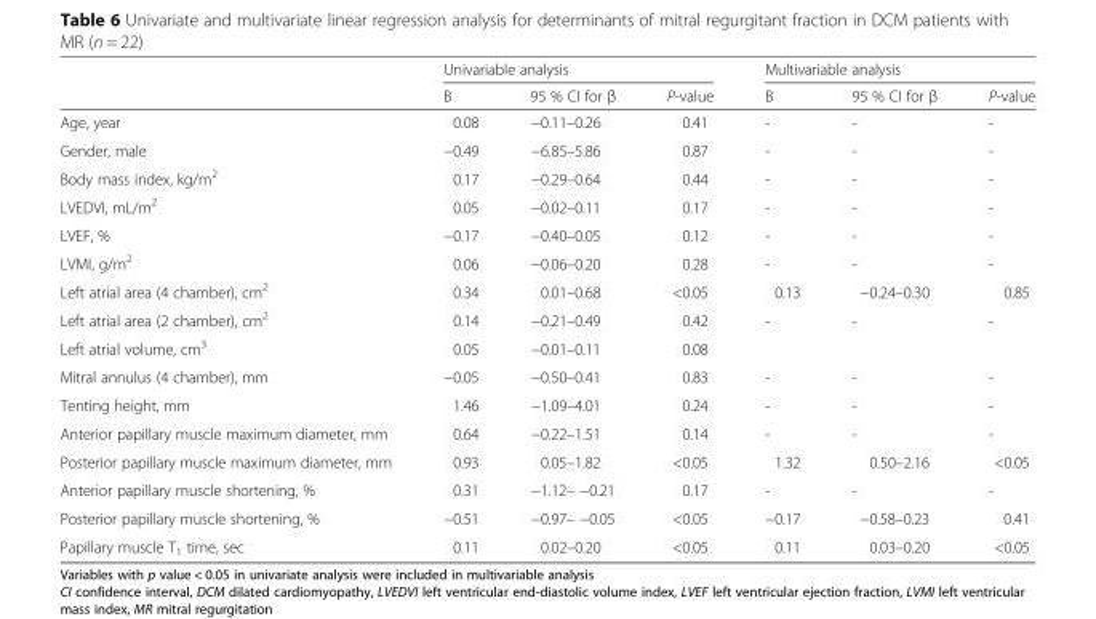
<table><thead><tr><td rowspan="2"></td><td colspan="3">Univariable analysis</td><td colspan="3">Multivariable analysis</td></tr><tr><td>B</td><td>95 % CI for β</td><td>P-value</td><td>B</td><td>95 % CI for β</td><td>P-value</td></tr></thead><tbody><tr><td>Age, year</td><td>0.08</td><td>−0.11–0.26</td><td>0.41</td><td>-</td><td>-</td><td>-</td></tr><tr><td>Gender, male</td><td>−0.49</td><td>−6.85–5.86</td><td>0.87</td><td>-</td><td>-</td><td>-</td></tr><tr><td>Body mass index, kg/m<sup>2</sup></td><td>0.17</td><td>−0.29–0.64</td><td>0.44</td><td>-</td><td>-</td><td>-</td></tr><tr><td>LVEDVI, mL/m<sup>2</sup></td><td>0.05</td><td>−0.02–0.11</td><td>0.17</td><td>-</td><td>-</td><td>-</td></tr><tr><td>LVEF, %</td><td>−0.17</td><td>−0.40–0.05</td><td>0.12</td><td>-</td><td>-</td><td>-</td></tr><tr><td>LVMI, g/m<sup>2</sup></td><td>0.06</td><td>−0.06–0.20</td><td>0.28</td><td>-</td><td>-</td><td>-</td></tr><tr><td>Left atrial area (4 chamber), cm<sup>2</sup></td><td>0.34</td><td>0.01–0.68</td><td>&lt;0.05</td><td>0.13</td><td>−0.24–0.30</td><td>0.85</td></tr><tr><td>Left atrial area (2 chamber), cm<sup>2</sup></td><td>0.14</td><td>−0.21–0.49</td><td>0.42</td><td>-</td><td>-</td><td>-</td></tr><tr><td>Left atrial volume, cm<sup>3</sup></td><td>0.05</td><td>−0.01–0.11</td><td>0.08</td><td></td><td></td><td></td></tr><tr><td>Mitral annulus (4 chamber), mm</td><td>−0.05</td><td>−0.50–0.41</td><td>0.83</td><td>-</td><td>-</td><td>-</td></tr><tr><td>Tenting height, mm</td><td>1.46</td><td>−1.09–4.01</td><td>0.24</td><td>-</td><td>-</td><td>-</td></tr><tr><td>Anterior papillary muscle maximum diameter, mm</td><td>0.64</td><td>−0.22–1.51</td><td>0.14</td><td>-</td><td>-</td><td>-</td></tr><tr><td>Posterior papillary muscle maximum diameter, mm</td><td>0.93</td><td>0.05–1.82</td><td>&lt;0.05</td><td>1.32</td><td>0.50–2.16</td><td>&lt;0.05</td></tr><tr><td>Anterior papillary muscle shortening, %</td><td>0.31</td><td>−1.12– −0.21</td><td>0.17</td><td>-</td><td>-</td><td>-</td></tr><tr><td>Posterior papillary muscle shortening, %</td><td>−0.51</td><td>−0.97– −0.05</td><td>&lt;0.05</td><td>−0.17</td><td>−0.58–0.23</td><td>0.41</td></tr><tr><td>Papillary muscle T<sub>1</sub> time, sec</td><td>0.11</td><td>0.02–0.20</td><td>&lt;0.05</td><td>0.11</td><td>0.03–0.20</td><td>&lt;0.05</td></tr></tbody></table>